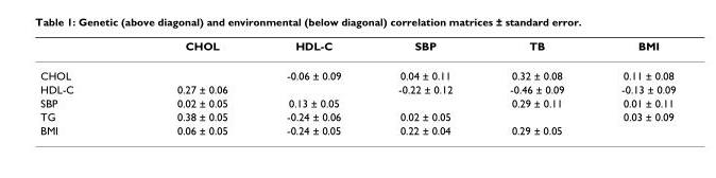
<table><thead><tr><td></td><td>CHOL</td><td>HDL-C</td><td>SBP</td><td>TB</td><td>BMI</td></tr></thead><tbody><tr><td>CHOL</td><td></td><td>-0.06 ± 0.09</td><td>0.04 ± 0.11</td><td>0.32 ± 0.08</td><td>0.11 ± 0.08</td></tr><tr><td>HDL-C</td><td>0.27 ± 0.06</td><td></td><td>-0.22 ± 0.12</td><td>-0.46 ± 0.09</td><td>-0.13 ± 0.09</td></tr><tr><td>SBP</td><td>0.02 ± 0.05</td><td>0.13 ± 0.05</td><td></td><td>0.29 ± 0.11</td><td>0.01 ± 0.11</td></tr><tr><td>TG</td><td>0.38 ± 0.05</td><td>-0.24 ± 0.06</td><td>0.02 ± 0.05</td><td></td><td>0.03 ± 0.09</td></tr><tr><td>BMI</td><td>0.06 ± 0.05</td><td>-0.24 ± 0.05</td><td>0.22 ± 0.04</td><td>0.29 ± 0.05</td><td></td></tr></tbody></table>